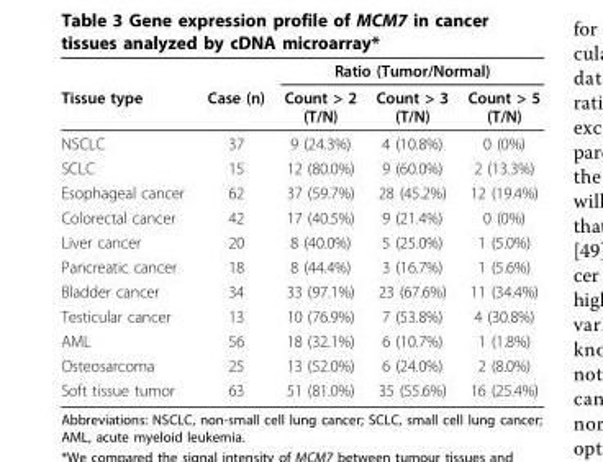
<table><thead><tr><td rowspan="2">Tissue type</td><td rowspan="2">Case (n)</td><td colspan="3">Ratio (Tumor/Normal)</td></tr><tr><td>Count &gt; 2 (T/N)</td><td>Count &gt; 3 (T/N)</td><td>Count &gt; 5 (T/N)</td></tr></thead><tbody><tr><td>NSCLC</td><td>37</td><td>9 (24.3%)</td><td>4 (10.8%)</td><td>0 (0%)</td></tr><tr><td>SCLC</td><td>15</td><td>12 (80.0%)</td><td>9 (60.0%)</td><td>2 (13.3%)</td></tr><tr><td>Esophageal cancer</td><td>62</td><td>37 (59.7%)</td><td>28 (45.2%)</td><td>12 (19.4%)</td></tr><tr><td>Colorectal cancer</td><td>42</td><td>17 (40.5%)</td><td>9 (21.4%)</td><td>0 (0%)</td></tr><tr><td>Liver cancer</td><td>20</td><td>8 (40.0%)</td><td>5 (25.0%)</td><td>1 (5.0%)</td></tr><tr><td>Pancreatic cancer</td><td>18</td><td>8 (44.4%)</td><td>3 (16.7%)</td><td>1 (5.6%)</td></tr><tr><td>Bladder cancer</td><td>34</td><td>33 (97.1%)</td><td>23 (67.6%)</td><td>11 (34.4%)</td></tr><tr><td>Testicular cancer</td><td>13</td><td>10 (76.9%)</td><td>7 (53.8%)</td><td>4 (30.8%)</td></tr><tr><td>AML</td><td>56</td><td>18 (32.1%)</td><td>6 (10.7%)</td><td>1 (1.8%)</td></tr><tr><td>Osteosarcoma</td><td>25</td><td>13 (52.0%)</td><td>6 (24.0%)</td><td>2 (8.0%)</td></tr><tr><td>Soft tissue tumor</td><td>63</td><td>51 (81.0%)</td><td>35 (55.6%)</td><td>16 (25.4%)</td></tr></tbody></table>